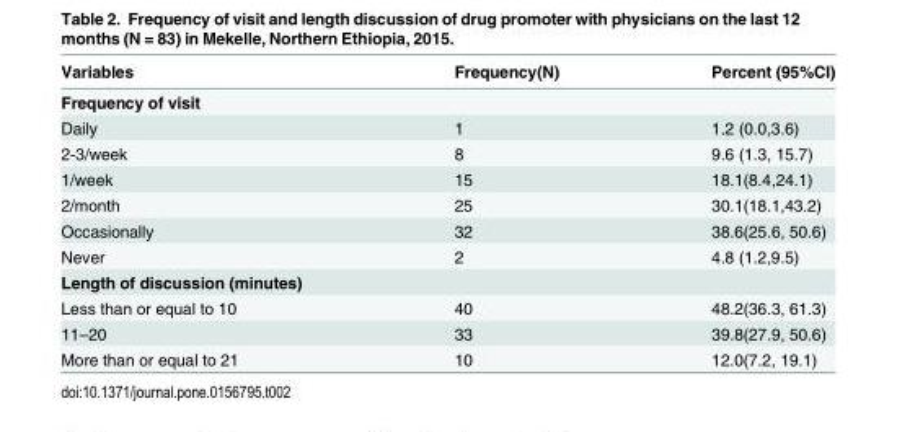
<table><thead><tr><td>Variables</td><td>Frequency(N)</td><td>Percent (95%CI)</td></tr></thead><tbody><tr><td colspan="3">Frequency of visit</td></tr><tr><td>Daily</td><td>1</td><td>1.2 (0.0,3.6)</td></tr><tr><td>2-3/week</td><td>8</td><td>9.6 (1.3, 15.7)</td></tr><tr><td>1/week</td><td>15</td><td>18.1(8.4,24.1)</td></tr><tr><td>2/month</td><td>25</td><td>30.1(18.1,43.2)</td></tr><tr><td>Occasionally</td><td>32</td><td>38.6(25.6, 50.6)</td></tr><tr><td>Never</td><td>2</td><td>4.8 (1.2,9.5)</td></tr><tr><td colspan="3">Length of discussion (minutes)</td></tr><tr><td>Less than or equal to 10</td><td>40</td><td>48.2(36.3, 61.3)</td></tr><tr><td>11–20</td><td>33</td><td>39.8(27.9, 50.6)</td></tr><tr><td>More than or equal to 21</td><td>10</td><td>12.0(7.2, 19.1)</td></tr></tbody></table>